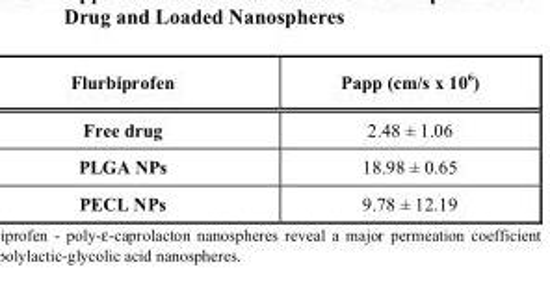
<table><thead><tr><td>Flurbiprofen</td><td>Papp (cm/s x 10<sup>6</sup>)</td></tr></thead><tbody><tr><td>Free drug</td><td>2.48 ± 1.06</td></tr><tr><td>PLGA NPs</td><td>18.98 ± 0.65</td></tr><tr><td>PECL NPs</td><td>9.78 ± 12.19</td></tr></tbody></table>